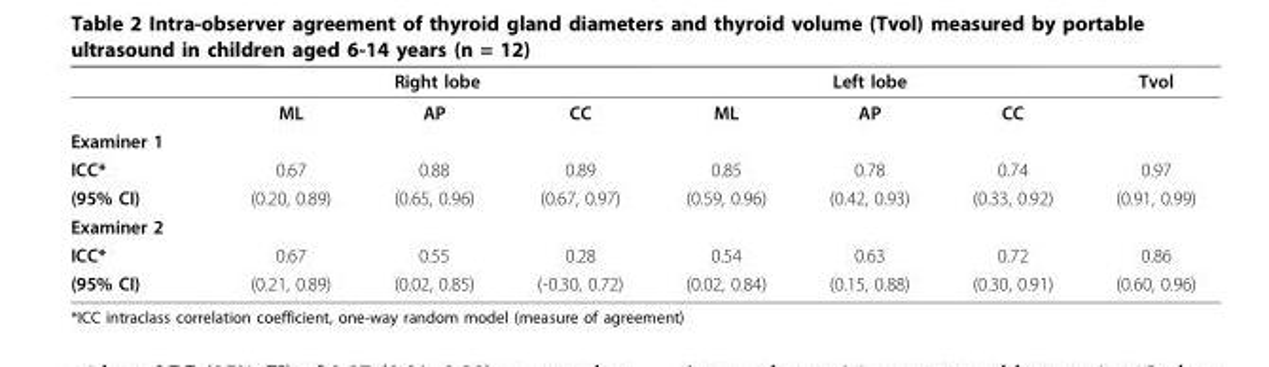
<table><thead><tr><td rowspan="2"></td><td colspan="3">Right lobe</td><td colspan="3">Left lobe</td><td rowspan="2">Tvol</td></tr><tr><td>ML</td><td>AP</td><td>CC</td><td>ML</td><td>AP</td><td>CC</td></tr></thead><tbody><tr><td colspan="8">Examiner 1</td></tr><tr><td>ICC*</td><td>0.67</td><td>0.88</td><td>0.89</td><td>0.85</td><td>0.78</td><td>0.74</td><td>0.97</td></tr><tr><td>(95% CI)</td><td>(0.20, 0.89)</td><td>(0.65, 0.96)</td><td>(0.67, 0.97)</td><td>(0.59, 0.96)</td><td>(0.42, 0.93)</td><td>(0.33, 0.92)</td><td>(0.91, 0.99)</td></tr><tr><td colspan="8">Examiner 2</td></tr><tr><td>ICC*</td><td>0.67</td><td>0.55</td><td>0.28</td><td>0.54</td><td>0.63</td><td>0.72</td><td>0.86</td></tr><tr><td>(95% CI)</td><td>(0.21, 0.89)</td><td>(0.02, 0.85)</td><td>(-0.30, 0.72)</td><td>(0.02, 0.84)</td><td>(0.15, 0.88)</td><td>(0.30, 0.91)</td><td>(0.60, 0.96)</td></tr></tbody></table>